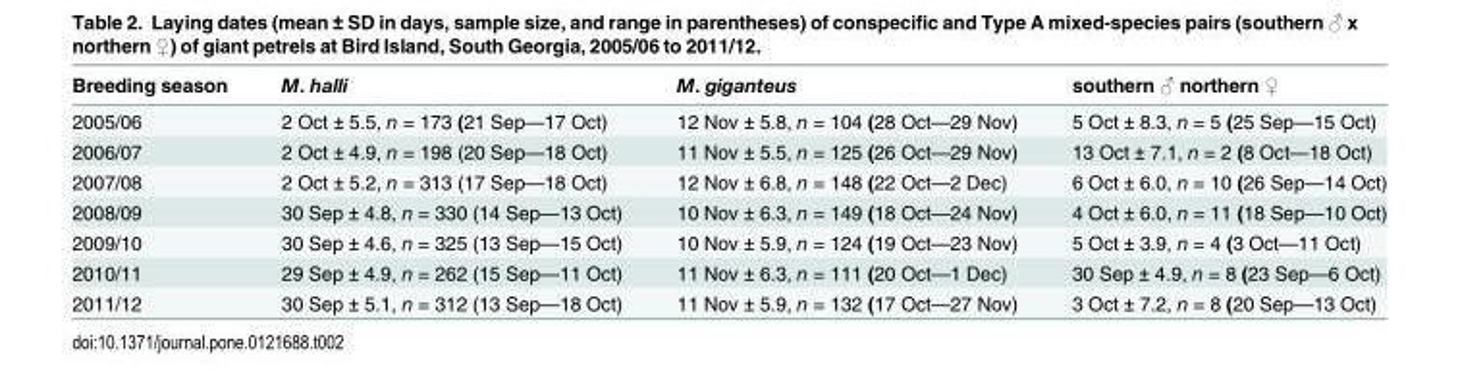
<table><thead><tr><td>Breeding season</td><td>M. halli</td><td>M. giganteus</td><td>southern ♂ northern ♀</td></tr></thead><tbody><tr><td>2005/06</td><td>2 Oct ± 5.5, n = 173 (21 Sep—17 Oct)</td><td>12 Nov ± 5.8, n = 104 (28 Oct—29 Nov)</td><td>5 Oct ± 8.3, n = 5 (25 Sep—15 Oct)</td></tr><tr><td>2006/07</td><td>2 Oct ± 4.9, n = 198 (20 Sep—18 Oct)</td><td>11 Nov ± 5.5, n = 125 (26 Oct—29 Nov)</td><td>13 Oct ± 7.1, n = 2 (8 Oct—18 Oct)</td></tr><tr><td>2007/08</td><td>2 Oct ± 5.2, n = 313 (17 Sep—18 Oct)</td><td>12 Nov ± 6.8, n = 148 (22 Oct—2 Dec)</td><td>6 Oct ± 6.0, n = 10 (26 Sep—14 Oct)</td></tr><tr><td>2008/09</td><td>30 Sep ± 4.8, n = 330 (14 Sep—13 Oct)</td><td>10 Nov ± 6.3, n = 149 (18 Oct—24 Nov)</td><td>4 Oct ± 6.0, n = 11 (18 Sep—10 Oct)</td></tr><tr><td>2009/10</td><td>30 Sep ± 4.6, n = 325 (13 Sep—15 Oct)</td><td>10 Nov ± 5.9, n = 124 (19 Oct—23 Nov)</td><td>5 Oct ± 3.9, n = 4 (3 Oct—11 Oct)</td></tr><tr><td>2010/11</td><td>29 Sep ± 4.9, n = 262 (15 Sep—11 Oct)</td><td>11 Nov ± 6.3, n = 111 (20 Oct—1 Dec)</td><td>30 Sep ± 4.9, n = 8 (23 Sep—6 Oct)</td></tr><tr><td>2011/12</td><td>30 Sep ± 5.1, n = 312 (13 Sep—18 Oct)</td><td>11 Nov ± 5.9, n = 132 (17 Oct—27 Nov)</td><td>3 Oct ± 7.2, n = 8 (20 Sep—13 Oct)</td></tr></tbody></table>